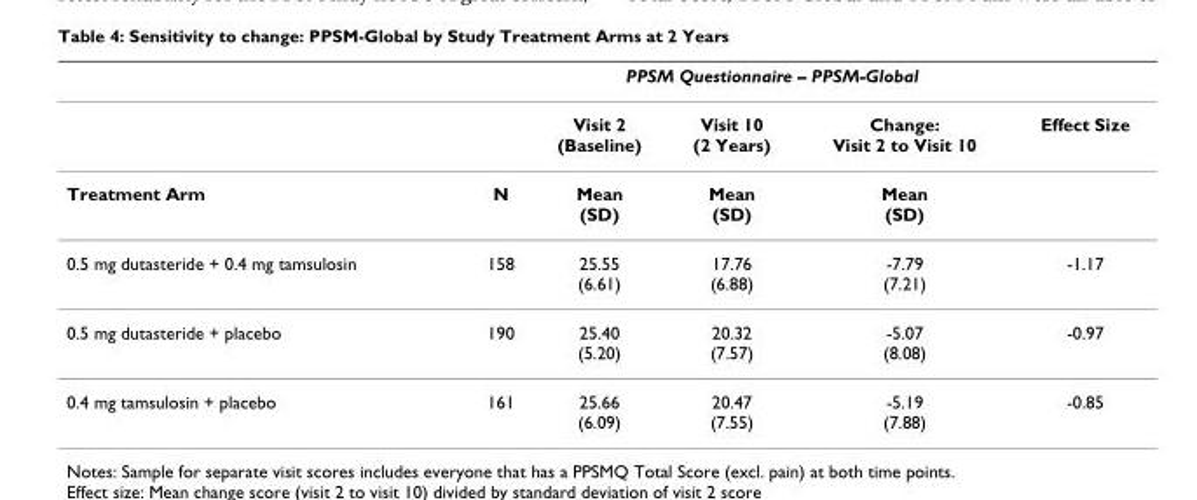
<table><thead><tr><td rowspan="2"></td><td rowspan="2"></td><td colspan="3">PPSM Questionnaire – PPSM-Global</td><td rowspan="2">Effect Size</td></tr><tr><td>Visit 2 (Baseline)</td><td>Visit 10 (2 Years)</td><td>Change: Visit 2 to Visit 10</td></tr></thead><tbody><tr><td>Treatment Arm</td><td>N</td><td>Mean (SD)</td><td>Mean (SD)</td><td>Mean (SD)</td><td></td></tr><tr><td>0.5 mg dutasteride + 0.4 mg tamsulosin</td><td>158</td><td>25.55 (6.61)</td><td>17.76 (6.88)</td><td>-7.79 (7.21)</td><td>-1.17</td></tr><tr><td>0.5 mg dutasteride + placebo</td><td>190</td><td>25.40 (5.20)</td><td>20.32 (7.57)</td><td>-5.07 (8.08)</td><td>-0.97</td></tr><tr><td>0.4 mg tamsulosin + placebo</td><td>161</td><td>25.66 (6.09)</td><td>20.47 (7.55)</td><td>-5.19 (7.88)</td><td>-0.85</td></tr></tbody></table>